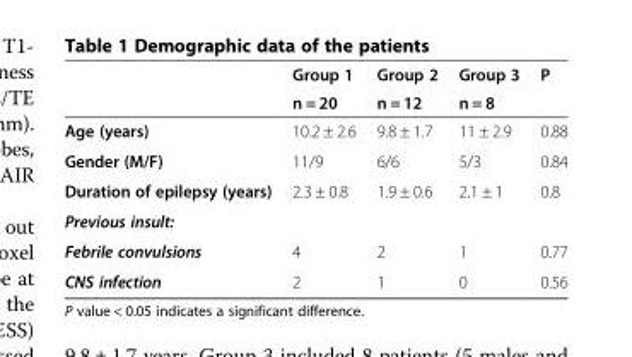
<table><thead><tr><td rowspan="2"></td><td rowspan="2">Group 1 n = 20</td><td rowspan="2">Group 2 n = 12</td><td rowspan="2">Group 3 n = 8</td><td rowspan="2">P</td></tr><tr></tr></thead><tbody><tr><td>Age (years)</td><td>10.2 ± 2.6</td><td>9.8 ± 1.7</td><td>11 ± 2.9</td><td>0.88</td></tr><tr><td>Gender (M/F)</td><td>11/9</td><td>6/6</td><td>5/3</td><td>0.84</td></tr><tr><td>Duration of epilepsy (years)</td><td>2.3 ± 0.8</td><td>1.9 ± 0.6</td><td>2.1 ± 1</td><td>0.8</td></tr><tr><td colspan="5">Previous insult:</td></tr><tr><td>Febrile convulsions</td><td>4</td><td>2</td><td>1</td><td>0.77</td></tr><tr><td>CNS infection</td><td>2</td><td>1</td><td>0</td><td>0.56</td></tr></tbody></table>